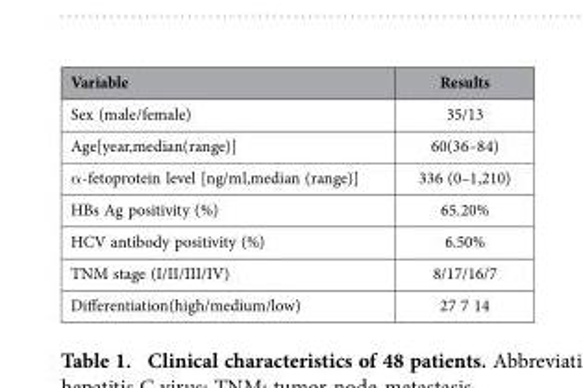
<table><thead><tr><td>Variable</td><td>Results</td></tr></thead><tbody><tr><td>Sex (male/female)</td><td>35/13</td></tr><tr><td>Age[year,median(range)]</td><td>60(36–84)</td></tr><tr><td>α -fetoprotein level [ng/ml,median (range)]</td><td>336 (0–1,210)</td></tr><tr><td>HBs Ag positivity (%)</td><td>65.20%</td></tr><tr><td>HCV antibody positivity (%)</td><td>6.50%</td></tr><tr><td>TNM stage (I/II/III/IV)</td><td>8/17/16/7</td></tr><tr><td>Differentiation(high/medium/low)</td><td>27 7 14</td></tr></tbody></table>